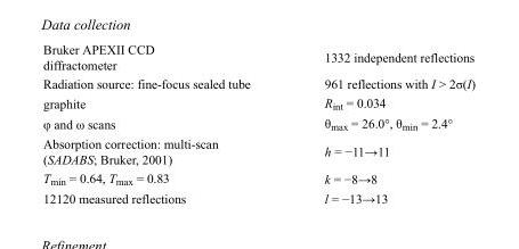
<table><tbody><tr><td>Bruker APEXII CCD diffractometer</td><td>1332 independent reflections</td></tr><tr><td>Radiation source: fine-focus sealed tube</td><td>961 reflections with I &gt; 2σ(I)</td></tr><tr><td>graphite</td><td>R<sub>int</sub> = 0.034</td></tr><tr><td>φ and ω scans</td><td>θ<sub>max</sub> = 26.0°, θ<sub>min</sub> = 2.4°</td></tr><tr><td>Absorption correction: multi-scan (SADABS; Bruker, 2001)</td><td>h = −11→11</td></tr><tr><td>T<sub>min</sub> = 0.64, T<sub>max</sub> = 0.83</td><td>k = −8→8</td></tr><tr><td>12120 measured reflections</td><td>l = −13→13</td></tr></tbody></table>